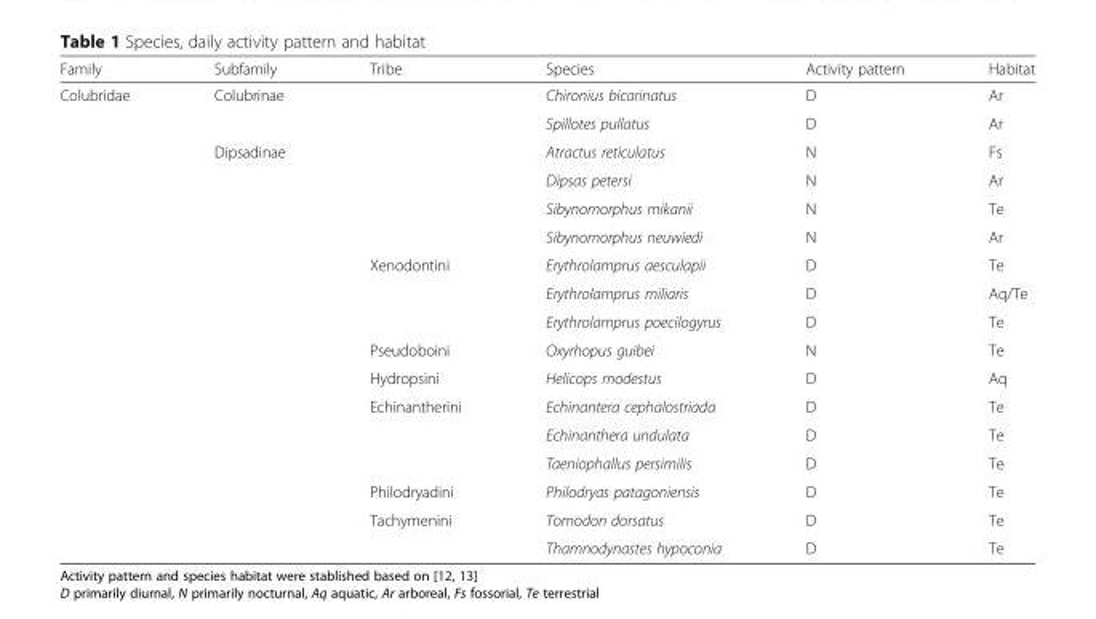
<table><thead><tr><td>Family</td><td>Subfamily</td><td>Tribe</td><td>Species</td><td>Activity pattern</td><td>Habitat</td></tr></thead><tbody><tr><td rowspan="17">Colubridae</td><td rowspan="2">Colubrinae</td><td rowspan="2"></td><td>Chironius bicarinatus</td><td>D</td><td>Ar</td></tr><tr><td>Spillotes pullatus</td><td>D</td><td>Ar</td></tr><tr><td rowspan="15">Dipsadinae</td><td rowspan="4"></td><td>Atractus reticulatus</td><td>N</td><td>Fs</td></tr><tr><td>Dipsas petersi</td><td>N</td><td>Ar</td></tr><tr><td>Sibynomorphus mikanii</td><td>N</td><td>Te</td></tr><tr><td>Sibynomorphus neuwiedi</td><td>N</td><td>Ar</td></tr><tr><td rowspan="3">Xenodontini</td><td>Erythrolamprus aesculapii</td><td>D</td><td>Te</td></tr><tr><td>Erythrolamprus miliaris</td><td>D</td><td>Aq/Te</td></tr><tr><td>Erythrolamprus poecilogyrus</td><td>D</td><td>Te</td></tr><tr><td>Pseudoboini</td><td>Oxyrhopus guibei</td><td>N</td><td>Te</td></tr><tr><td>Hydropsini</td><td>Helicops modestus</td><td>D</td><td>Aq</td></tr><tr><td rowspan="3">Echinantherini</td><td>Echinantera cephalostriada</td><td>D</td><td>Te</td></tr><tr><td>Echinanthera undulata</td><td>D</td><td>Te</td></tr><tr><td>Taeniophallus persimilis</td><td>D</td><td>Te</td></tr><tr><td>Philodryadini</td><td>Philodryas patagoniensis</td><td>D</td><td>Te</td></tr><tr><td rowspan="2">Tachymenini</td><td>Tomodon dorsatus</td><td>D</td><td>Te</td></tr><tr><td>Thamnodynastes hypoconia</td><td>D</td><td>Te</td></tr></tbody></table>